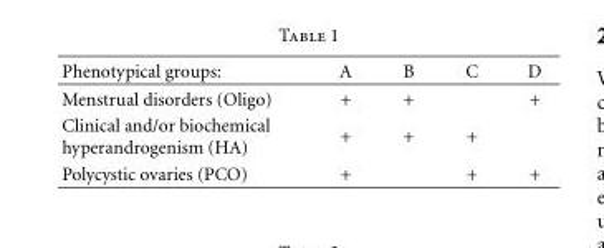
<table><thead><tr><td>Phenotypical groups:</td><td>A</td><td>B</td><td>C</td><td>D</td></tr></thead><tbody><tr><td>Menstrual disorders (Oligo)</td><td>+</td><td>+</td><td></td><td>+</td></tr><tr><td>Clinical and/or biochemical hyperandrogenism (HA)</td><td>+</td><td>+</td><td>+</td><td></td></tr><tr><td>Polycystic ovaries (PCO)</td><td>+</td><td></td><td>+</td><td>+</td></tr></tbody></table>